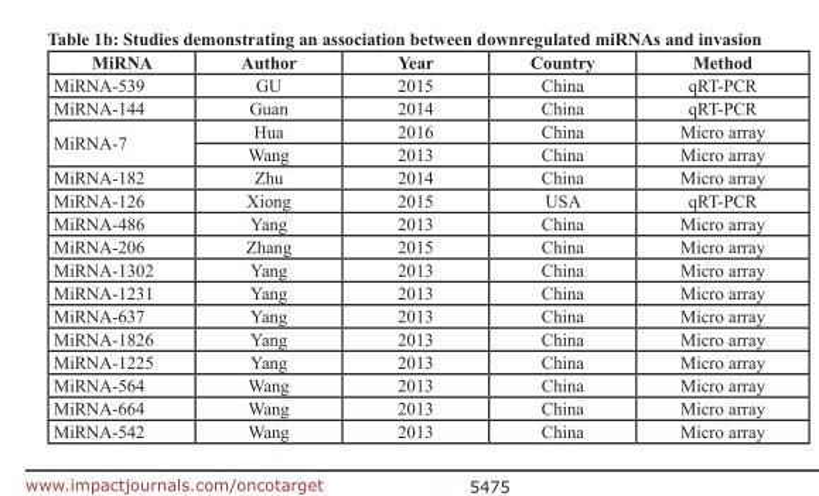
<table><thead><tr><td>MiRNA</td><td>Author</td><td>Year</td><td>Country</td><td>Method</td></tr></thead><tbody><tr><td>MiRNA-539</td><td>GU</td><td>2015</td><td>China</td><td>qRT-PCR</td></tr><tr><td>MiRNA-144</td><td>Guan</td><td>2014</td><td>China</td><td>qRT-PCR</td></tr><tr><td rowspan="2">MiRNA-7</td><td>Hua</td><td>2016</td><td>China</td><td>Micro array</td></tr><tr><td>Wang</td><td>2013</td><td>China</td><td>Micro array</td></tr><tr><td>MiRNA-182</td><td>Zhu</td><td>2014</td><td>China</td><td>Micro array</td></tr><tr><td>MiRNA-126</td><td>Xiong</td><td>2015</td><td>USA</td><td>qRT-PCR</td></tr><tr><td>MiRNA-486</td><td>Yang</td><td>2013</td><td>China</td><td>Micro array</td></tr><tr><td>MiRNA-206</td><td>Zhang</td><td>2015</td><td>China</td><td>Micro array</td></tr><tr><td>MiRNA-1302</td><td>Yang</td><td>2013</td><td>China</td><td>Micro array</td></tr><tr><td>MiRNA-1231</td><td>Yang</td><td>2013</td><td>China</td><td>Micro array</td></tr><tr><td>MiRNA-637</td><td>Yang</td><td>2013</td><td>China</td><td>Micro array</td></tr><tr><td>MiRNA-1826</td><td>Yang</td><td>2013</td><td>China</td><td>Micro array</td></tr><tr><td>MiRNA-1225</td><td>Yang</td><td>2013</td><td>China</td><td>Micro array</td></tr><tr><td>MiRNA-564</td><td>Wang</td><td>2013</td><td>China</td><td>Micro array</td></tr><tr><td>MiRNA-664</td><td>Wang</td><td>2013</td><td>China</td><td>Micro array</td></tr><tr><td>MiRNA-542</td><td>Wang</td><td>2013</td><td>China</td><td>Micro array</td></tr></tbody></table>